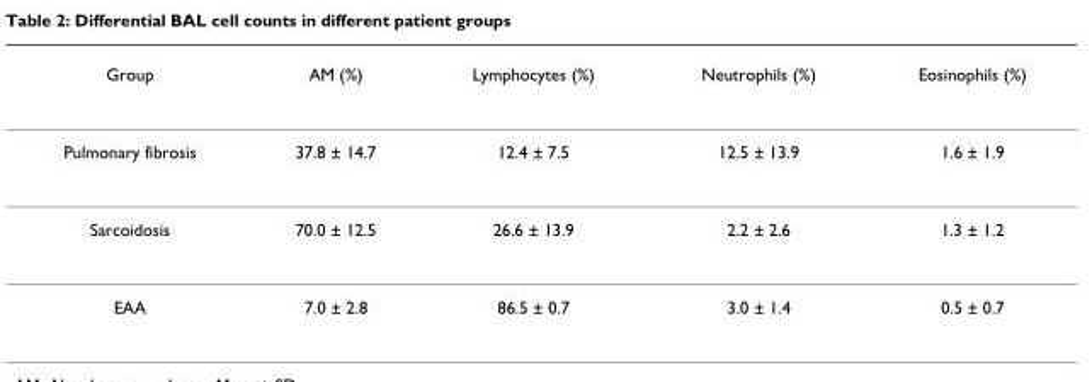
<table><thead><tr><td>Group</td><td>AM (%)</td><td>Lymphocytes (%)</td><td>Neutrophils (%)</td><td>Eosinophils (%)</td></tr></thead><tbody><tr><td>Pulmonary fibrosis</td><td>37.8 ± 14.7</td><td>12.4 ± 7.5</td><td>12.5 ± 13.9</td><td>1.6 ± 1.9</td></tr><tr><td>Sarcoidosis</td><td>70.0 ± 12.5</td><td>26.6 ± 13.9</td><td>2.2 ± 2.6</td><td>1.3 ± 1.2</td></tr><tr><td>EAA</td><td>7.0 ± 2.8</td><td>86.5 ± 0.7</td><td>3.0 ± 1.4</td><td>0.5 ± 0.7</td></tr></tbody></table>